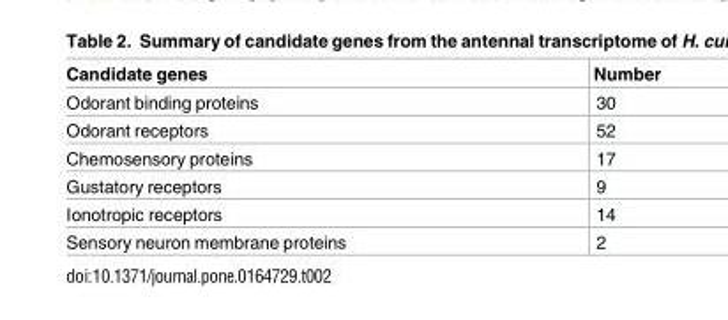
<table><thead><tr><td>Candidate genes</td><td>Number</td></tr></thead><tbody><tr><td>Odorant binding proteins</td><td>30</td></tr><tr><td>Odorant receptors</td><td>52</td></tr><tr><td>Chemosensory proteins</td><td>17</td></tr><tr><td>Gustatory receptors</td><td>9</td></tr><tr><td>Ionotropic receptors</td><td>14</td></tr><tr><td>Sensory neuron membrane proteins</td><td>2</td></tr></tbody></table>